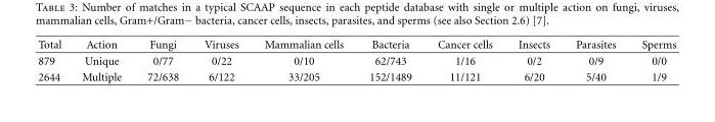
<table><thead><tr><td>Total</td><td>Action</td><td>Fungi</td><td>Viruses</td><td>Mammalian cells</td><td>Bacteria</td><td>Cancer cells</td><td>Insects</td><td>Parasites</td><td>Sperms</td></tr></thead><tbody><tr><td>879</td><td>Unique</td><td>0/77</td><td>0/22</td><td>0/10</td><td>62/743</td><td>1/16</td><td>0/2</td><td>0/9</td><td>0/0</td></tr><tr><td>2644</td><td>Multiple</td><td>72/638</td><td>6/122</td><td>33/205</td><td>152/1489</td><td>11/121</td><td>6/20</td><td>5/40</td><td>1/9</td></tr></tbody></table>